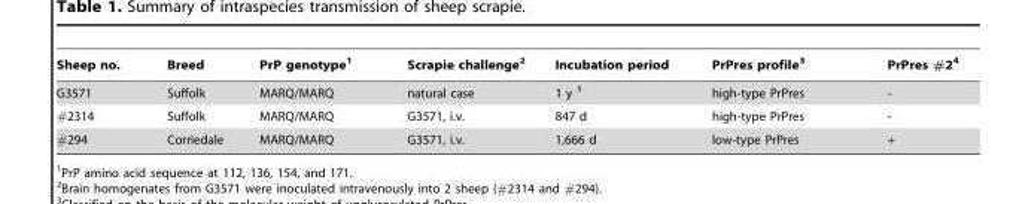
<table><thead><tr><td>Sheep no.</td><td>Breed</td><td>PrP genotype<sup>1</sup></td><td>Scrapie challenge<sup>2</sup></td><td>Incubation period</td><td>PrPres profile<sup>3</sup></td><td>PrPres #2<sup>4</sup></td></tr></thead><tbody><tr><td>G3571</td><td>Suffolk</td><td>MARQ/MARQ</td><td>natural case</td><td>1 y 5</td><td>high-type PrPres</td><td>-</td></tr><tr><td>#2314</td><td>Suffolk</td><td>MARQ/MARQ</td><td>G3571, i.v.</td><td>847 d</td><td>high-type PrPres</td><td>-</td></tr><tr><td>#294</td><td>Corriedale</td><td>MARQ/MARQ</td><td>G3571, i.v.</td><td>1,666 d</td><td>low-type PrPres</td><td>+</td></tr></tbody></table>